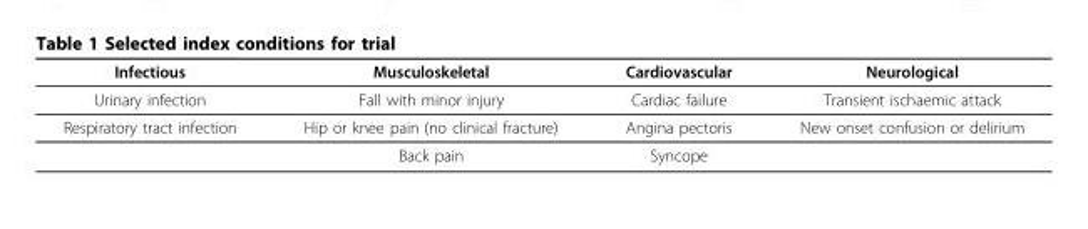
<table><thead><tr><td>Infectious</td><td>Musculoskeletal</td><td>Cardiovascular</td><td>Neurological</td></tr></thead><tbody><tr><td>Urinary infection</td><td>Fall with minor injury</td><td>Cardiac failure</td><td>Transient ischaemic attack</td></tr><tr><td rowspan="2">Respiratory tract infection</td><td>Hip or knee pain (no clinical fracture)</td><td>Angina pectoris</td><td>New onset confusion or delirium</td></tr><tr><td>Back pain</td><td>Syncope</td><td></td></tr></tbody></table>